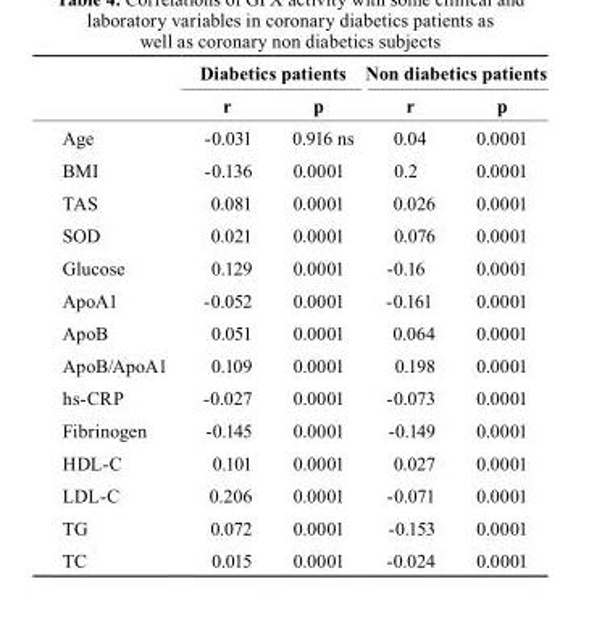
<table><thead><tr><td rowspan="2"></td><td colspan="2">diabetics patients</td><td colspan="2">non diabetics patients</td></tr><tr><td>r</td><td>p</td><td>r</td><td>p</td></tr></thead><tbody><tr><td>Age</td><td>-0.031</td><td>0.916 ns</td><td>0.04</td><td>0.0001</td></tr><tr><td>BMI</td><td>-0.136</td><td>0.0001</td><td>0.2</td><td>0.0001</td></tr><tr><td>TAS</td><td>0.081</td><td>0.0001</td><td>0.026</td><td>0.0001</td></tr><tr><td>SOD</td><td>0.021</td><td>0.0001</td><td>0.076</td><td>0.0001</td></tr><tr><td>Glucose</td><td>0.129</td><td>0.0001</td><td>-0.16</td><td>0.0001</td></tr><tr><td>ApoA1</td><td>-0.052</td><td>0.0001</td><td>-0.161</td><td>0.0001</td></tr><tr><td>ApoB</td><td>0.051</td><td>0.0001</td><td>0.064</td><td>0.0001</td></tr><tr><td>ApoB/ApoA1</td><td>0.109</td><td>0.0001</td><td>0.198</td><td>0.0001</td></tr><tr><td>hs-CRP</td><td>-0.027</td><td>0.0001</td><td>-0.073</td><td>0.0001</td></tr><tr><td>Fibrinogen</td><td>-0.145</td><td>0.0001</td><td>-0.149</td><td>0.0001</td></tr><tr><td>HDL-C</td><td>0.101</td><td>0.0001</td><td>0.027</td><td>0.0001</td></tr><tr><td>LDL-C</td><td>0.206</td><td>0.0001</td><td>-0.071</td><td>0.0001</td></tr><tr><td>TG</td><td>0.072</td><td>0.0001</td><td>-0.153</td><td>0.0001</td></tr><tr><td>TC</td><td>0.015</td><td>0.0001</td><td>-0.024</td><td>0.0001</td></tr></tbody></table>